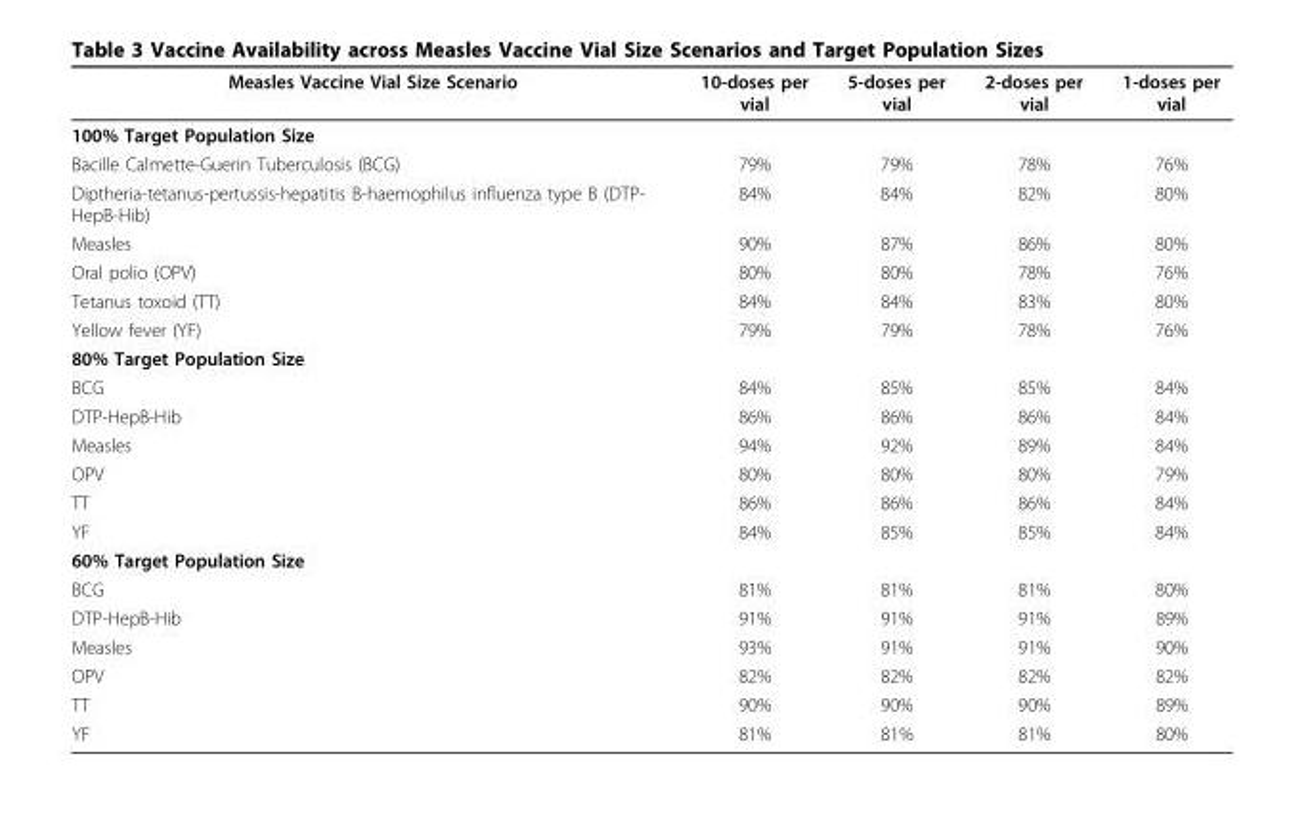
<table><thead><tr><td>Measles Vaccine Vial Size Scenario</td><td>10-doses per vial</td><td>5-doses per vial</td><td>2-doses per vial</td><td>1-doses per vial</td></tr></thead><tbody><tr><td colspan="5">100% Target Population Size</td></tr><tr><td>Bacille Calmette-Guerin Tuberculosis (BCG)</td><td>79%</td><td>79%</td><td>78%</td><td>76%</td></tr><tr><td>Diptheria-tetanus-pertussis-hepatitis B-haemophilus influenza type B (DTP- HepB-Hib)</td><td>84%</td><td>84%</td><td>82%</td><td>80%</td></tr><tr><td>Measles</td><td>90%</td><td>87%</td><td>86%</td><td>80%</td></tr><tr><td>Oral polio (OPV)</td><td>80%</td><td>80%</td><td>78%</td><td>76%</td></tr><tr><td>Tetanus toxoid (TT)</td><td>84%</td><td>84%</td><td>83%</td><td>80%</td></tr><tr><td>Yellow fever (YF)</td><td>79%</td><td>79%</td><td>78%</td><td>76%</td></tr><tr><td colspan="5">80% Target Population Size</td></tr><tr><td>BCG</td><td>84%</td><td>85%</td><td>85%</td><td>84%</td></tr><tr><td>DTP-HepB-Hib</td><td>86%</td><td>86%</td><td>86%</td><td>84%</td></tr><tr><td>Measles</td><td>94%</td><td>92%</td><td>89%</td><td>84%</td></tr><tr><td>OPV</td><td>80%</td><td>80%</td><td>80%</td><td>79%</td></tr><tr><td>TT</td><td>86%</td><td>86%</td><td>86%</td><td>84%</td></tr><tr><td>YF</td><td>84%</td><td>85%</td><td>85%</td><td>84%</td></tr><tr><td colspan="5">60% Target Population Size</td></tr><tr><td>BCG</td><td>81%</td><td>81%</td><td>81%</td><td>80%</td></tr><tr><td>DTP-HepB-Hib</td><td>91%</td><td>91%</td><td>91%</td><td>89%</td></tr><tr><td>Measles</td><td>93%</td><td>91%</td><td>91%</td><td>90%</td></tr><tr><td>OPV</td><td>82%</td><td>82%</td><td>82%</td><td>82%</td></tr><tr><td>TT</td><td>90%</td><td>90%</td><td>90%</td><td>89%</td></tr><tr><td>YF</td><td>81%</td><td>81%</td><td>81%</td><td>80%</td></tr></tbody></table>